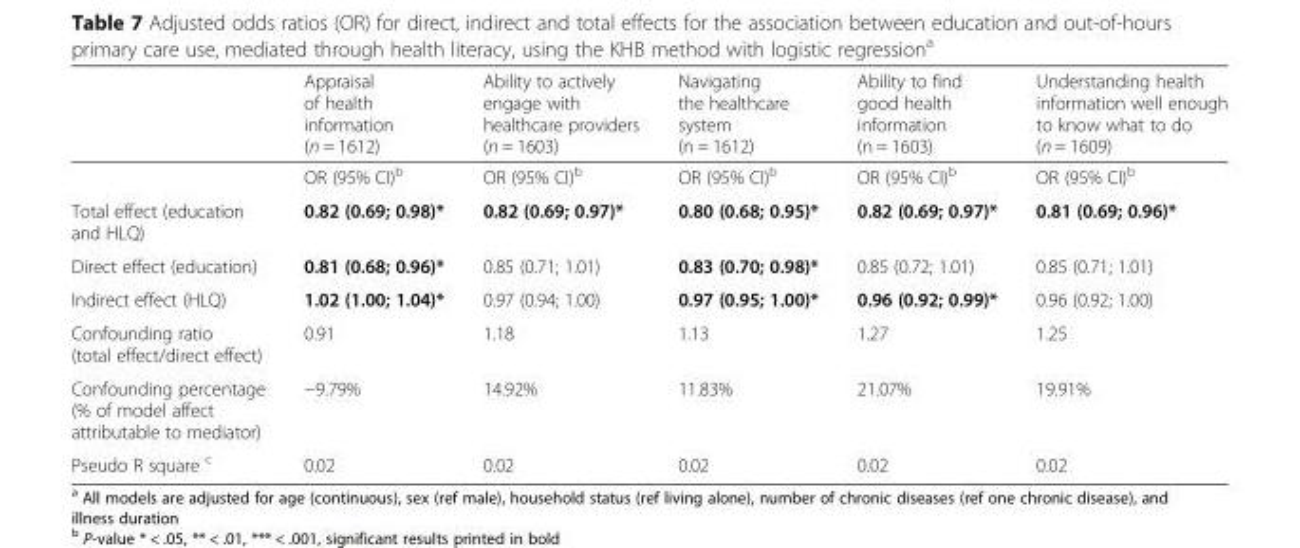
<table><thead><tr><td></td><td>Appraisal of health information (n = 1612)</td><td>Ability to actively engage with healthcare providers (n = 1603)</td><td>Navigating the healthcare system (n = 1612)</td><td>Ability to find good health information (n = 1603)</td><td>Understanding health information well enough to know what to do (n = 1609)</td></tr></thead><tbody><tr><td></td><td>OR (95% CI)<sup>b</sup></td><td>OR (95% CI)<sup>b</sup></td><td>OR (95% CI)<sup>b</sup></td><td>OR (95% CI)<sup>b</sup></td><td>OR (95% CI)<sup>b</sup></td></tr><tr><td>Total effect (education and HLQ)</td><td>0.82 (0.69; 0.98)*</td><td>0.82 (0.69; 0.97)*</td><td>0.80 (0.68; 0.95)*</td><td>0.82 (0.69; 0.97)*</td><td>0.81 (0.69; 0.96)*</td></tr><tr><td>Direct effect (education)</td><td>0.81 (0.68; 0.96)*</td><td>0.85 (0.71; 1.01)</td><td>0.83 (0.70; 0.98)*</td><td>0.85 (0.72; 1.01)</td><td>0.85 (0.71; 1.01)</td></tr><tr><td>Indirect effect (HLQ)</td><td>1.02 (1.00; 1.04)*</td><td>0.97 (0.94; 1.00)</td><td>0.97 (0.95; 1.00)*</td><td>0.96 (0.92; 0.99)*</td><td>0.96 (0.92; 1.00)</td></tr><tr><td>Confounding ratio (total effect/direct effect)</td><td>0.91</td><td>1.18</td><td>1.13</td><td>1.27</td><td>1.25</td></tr><tr><td>Confounding percentage (% of model affect attributable to mediator)</td><td>−9.79%</td><td>14.92%</td><td>11.83%</td><td>21.07%</td><td>19.91%</td></tr><tr><td>Pseudo R square <sup>c</sup></td><td>0.02</td><td>0.02</td><td>0.02</td><td>0.02</td><td>0.02</td></tr></tbody></table>